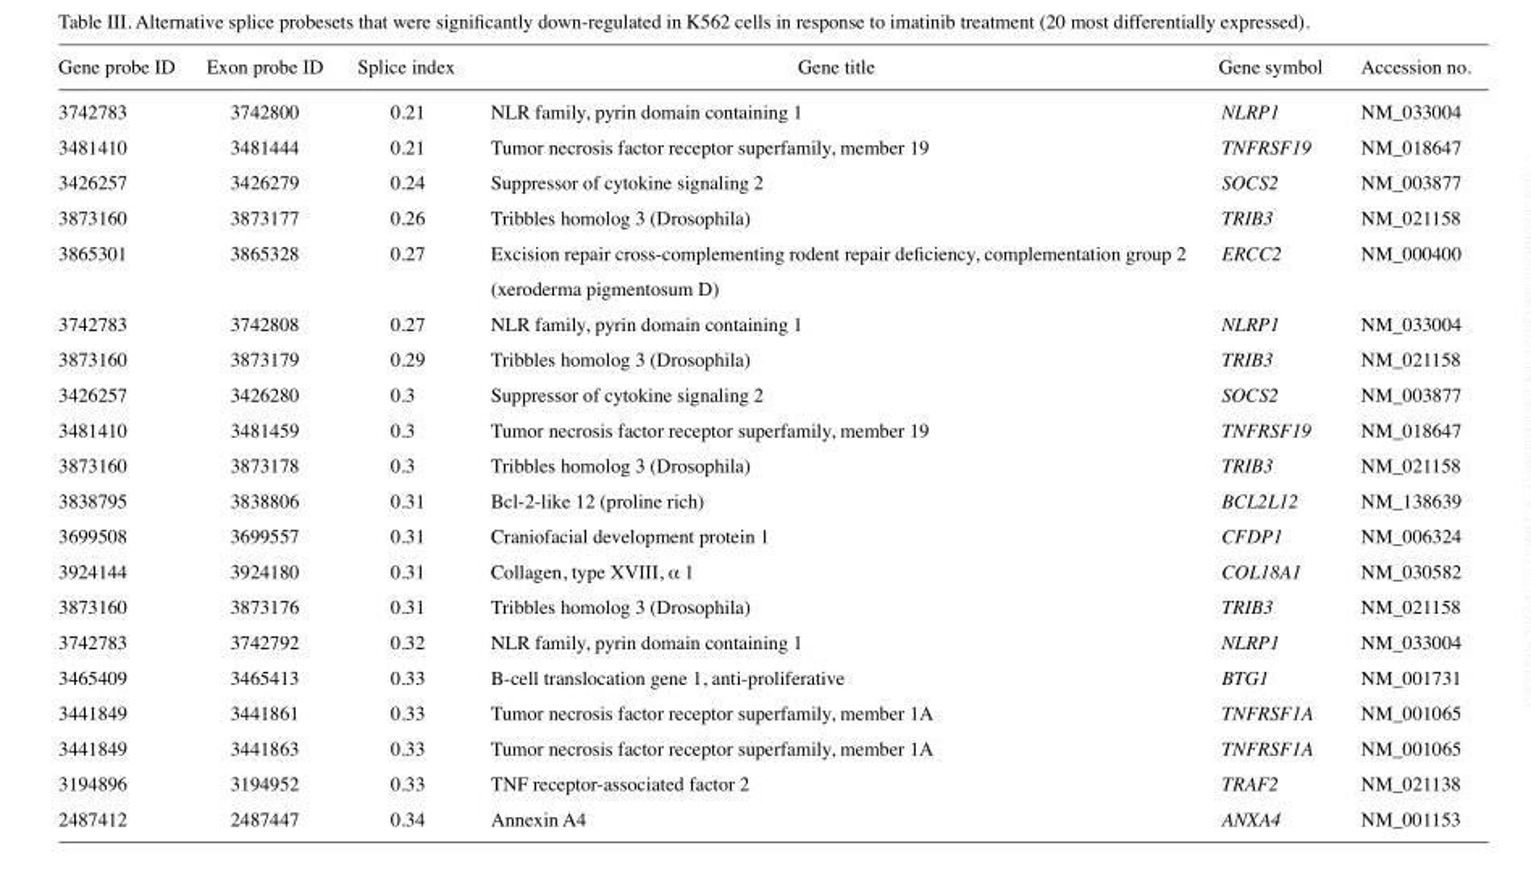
<table><thead><tr><td>Gene probe ID</td><td>Exon probe ID</td><td>Splice index</td><td>Gene title</td><td>Gene symbol</td><td>Accession no.</td></tr></thead><tbody><tr><td>3742783</td><td>3742800</td><td>0.21</td><td>NLR family, pyrin domain containing 1</td><td>NLRP1</td><td>NM_033004</td></tr><tr><td>3481410</td><td>3481444</td><td>0.21</td><td>Tumor necrosis factor receptor superfamily, member 19</td><td>TNFRSF19</td><td>NM_018647</td></tr><tr><td>3426257</td><td>3426279</td><td>0.24</td><td>Suppressor of cytokine signaling 2</td><td>SOCS2</td><td>NM_003877</td></tr><tr><td>3873160</td><td>3873177</td><td>0.26</td><td>Tribbles homolog 3 (Drosophila)</td><td>TRIB3</td><td>NM_021158</td></tr><tr><td>3865301</td><td>3865328</td><td>0.27</td><td>Excision repair cross-complementing rodent repair deficiency, complementation group 2 (xeroderma pigmentosum D)</td><td>ERCC2</td><td>NM_000400</td></tr><tr><td>3742783</td><td>3742808</td><td>0.27</td><td>NLR family, pyrin domain containing 1</td><td>NLRP1</td><td>NM_033004</td></tr><tr><td>3873160</td><td>3873179</td><td>0.29</td><td>Tribbles homolog 3 (Drosophila)</td><td>TRIB3</td><td>NM_021158</td></tr><tr><td>3426257</td><td>3426280</td><td>0.3</td><td>Suppressor of cytokine signaling 2</td><td>SOCS2</td><td>NM_003877</td></tr><tr><td>3481410</td><td>3481459</td><td>0.3</td><td>Tumor necrosis factor receptor superfamily, member 19</td><td>TNFRSF19</td><td>NM_018647</td></tr><tr><td>3873160</td><td>3873178</td><td>0.3</td><td>Tribbles homolog 3 (Drosophila)</td><td>TRIB3</td><td>NM_021158</td></tr><tr><td>3838795</td><td>3838806</td><td>0.31</td><td>Bcl-2-like 12 (proline rich)</td><td>BCL2L12</td><td>NM_138639</td></tr><tr><td>3699508</td><td>3699557</td><td>0.31</td><td>Craniofacial development protein 1</td><td>CFDP1</td><td>NM_006324</td></tr><tr><td>3924144</td><td>3924180</td><td>0.31</td><td>Collagen, type XVIII, α 1</td><td>COL18A1</td><td>NM_030582</td></tr><tr><td>3873160</td><td>3873176</td><td>0.31</td><td>Tribbles homolog 3 (Drosophila)</td><td>TRIB3</td><td>NM_021158</td></tr><tr><td>3742783</td><td>3742792</td><td>0.32</td><td>NLR family, pyrin domain containing 1</td><td>NLRP1</td><td>NM_033004</td></tr><tr><td>3465409</td><td>3465413</td><td>0.33</td><td>B-cell translocation gene 1, anti-proliferative</td><td>BTG1</td><td>NM_001731</td></tr><tr><td>3441849</td><td>3441861</td><td>0.33</td><td>Tumor necrosis factor receptor superfamily, member 1A</td><td>TNFRSF1A</td><td>NM_001065</td></tr><tr><td>3441849</td><td>3441863</td><td>0.33</td><td>Tumor necrosis factor receptor superfamily, member 1A</td><td>TNFRSF1A</td><td>NM_001065</td></tr><tr><td>3194896</td><td>3194952</td><td>0.33</td><td>TNF receptor-associated factor 2</td><td>TRAF2</td><td>NM_021138</td></tr><tr><td>2487412</td><td>2487447</td><td>0.34</td><td>Annexin A4</td><td>ANXA4</td><td>NM_001153</td></tr></tbody></table>